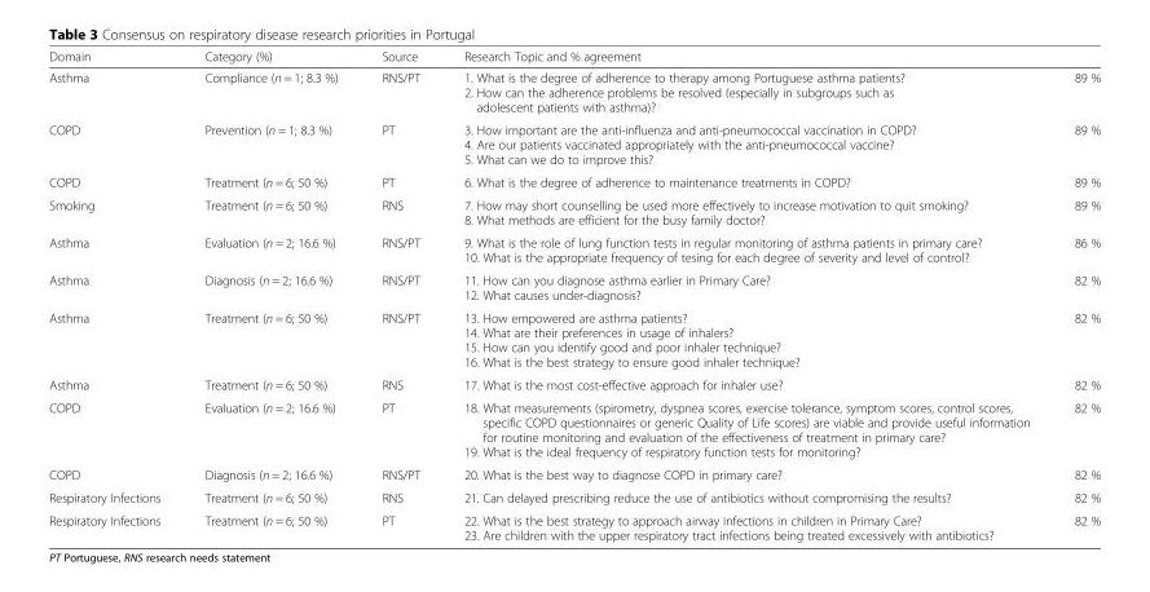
<table><thead><tr><td rowspan="2">Domain Asthma</td><td rowspan="2">Category (%) Compliance (n = 1; 8.3 %)</td><td rowspan="2">Source RNS/PT</td><td colspan="2">Research Topic and % agreement</td></tr><tr><td>1. What is the degree of adherence to therapy among Portuguese asthma patients? 2. How can the adherence problems be resolved (especially in subgroups such as adolescent patients with asthma)?</td><td>89 %</td></tr></thead><tbody><tr><td>COPD</td><td>Prevention (n = 1; 8.3 %)</td><td>PT</td><td>3. How important are the anti-influenza and anti-pneumococcal vaccination in COPD? 4. Are our patients vaccinated appropriately with the anti-pneumococcal vaccine? 5. What can we do to improve this?</td><td>89 %</td></tr><tr><td>COPD</td><td>Treatment (n = 6; 50 %)</td><td>PT</td><td>6. What is the degree of adherence to maintenance treatments in COPD?</td><td>89 %</td></tr><tr><td>Smoking</td><td>Treatment (n = 6; 50 %)</td><td>RNS</td><td>7. How may short counselling be used more effectively to increase motivation to quit smoking? 8. What methods are efficient for the busy family doctor?</td><td>89 %</td></tr><tr><td>Asthma</td><td>Evaluation (n = 2; 16.6 %)</td><td>RNS/PT</td><td>9. What is the role of lung function tests in regular monitoring of asthma patients in primary care? 10. What is the appropriate frequency of tesing for each degree of severity and level of control?</td><td>86 %</td></tr><tr><td>Asthma</td><td>Diagnosis (n = 2; 16.6 %)</td><td>RNS/PT</td><td>11. How can you diagnose asthma earlier in Primary Care? 12. What causes under-diagnosis?</td><td>82 %</td></tr><tr><td>Asthma</td><td>Treatment (n = 6; 50 %)</td><td>RNS/PT</td><td>13. How empowered are asthma patients? 14. What are their preferences in usage of inhalers? 15. How can you identify good and poor inhaler technique? 16. What is the best strategy to ensure good inhaler technique?</td><td>82 %</td></tr><tr><td>Asthma</td><td>Treatment (n = 6; 50 %)</td><td>RNS</td><td>17. What is the most cost-effective approach for inhaler use?</td><td>82 %</td></tr><tr><td>COPD</td><td>Evaluation (n = 2; 16.6 %)</td><td>PT</td><td>18. What measurements (spirometry, dyspnea scores, exercise tolerance, symptom scores, control scores, specific COPD questionnaires or generic Quality of Life scores) are viable and provide useful information for routine monitoring and evaluation of the effectiveness of treatment in primary care? 19. What is the ideal frequency of respiratory function tests for monitoring?</td><td>82 %</td></tr><tr><td>COPD</td><td>Diagnosis (n = 2; 16.6 %)</td><td>RNS/PT</td><td>20. What is the best way to diagnose COPD in primary care?</td><td>82 %</td></tr><tr><td>Respiratory Infections</td><td>Treatment (n = 6; 50 %)</td><td>RNS</td><td>21. Can delayed prescribing reduce the use of antibiotics without compromising the results?</td><td>82 %</td></tr><tr><td>Respiratory Infections</td><td>Treatment (n = 6; 50 %)</td><td>PT</td><td>22. What is the best strategy to approach airway infections in children in Primary Care? 23. Are children with the upper respiratory tract infections being treated excessively with antibiotics?</td><td>82 %</td></tr></tbody></table>